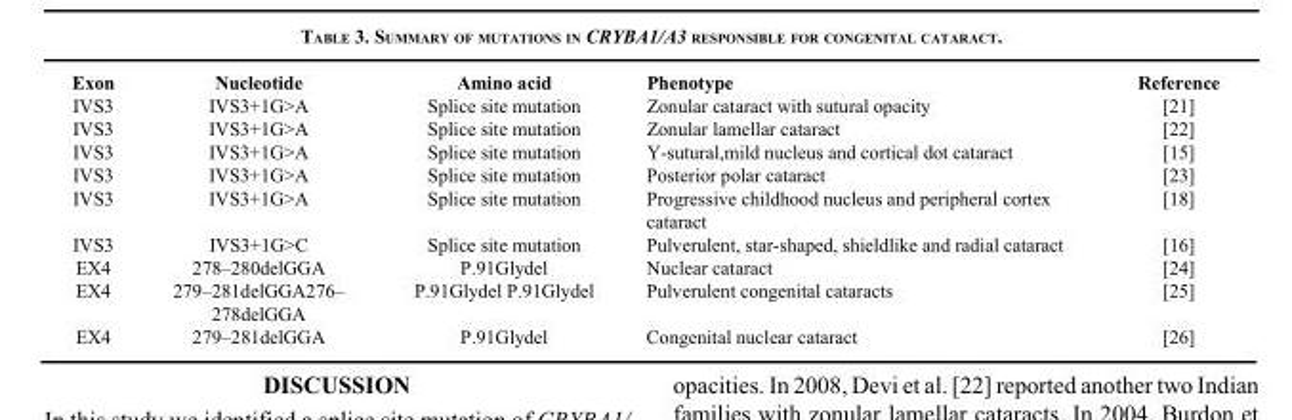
<table><thead><tr><td>Exon</td><td>Nucleotide</td><td>Amino acid</td><td>Phenotype</td><td>Reference</td></tr></thead><tbody><tr><td>IVS3</td><td>IVS3+1G&gt;A</td><td>Splice site mutation</td><td>Zonular cataract with sutural opacity</td><td>[21]</td></tr><tr><td>IVS3</td><td>IVS3+1G&gt;A</td><td>Splice site mutation</td><td>Zonular lamellar cataract</td><td>[22]</td></tr><tr><td>IVS3</td><td>IVS3+1G&gt;A</td><td>Splice site mutation</td><td>Y-sutural,mild nucleus and cortical dot cataract</td><td>[15]</td></tr><tr><td>IVS3</td><td>IVS3+1G&gt;A</td><td>Splice site mutation</td><td>Posterior polar cataract</td><td>[23]</td></tr><tr><td>IVS3</td><td>IVS3+1G&gt;A</td><td>Splice site mutation</td><td>Progressive childhood nucleus and peripheral cortex cataract</td><td>[18]</td></tr><tr><td>IVS3</td><td>IVS3+1G&gt;C</td><td>Splice site mutation</td><td>Pulverulent, star-shaped, shieldlike and radial cataract</td><td>[16]</td></tr><tr><td>EX4</td><td>278–280delGGA</td><td>P.91Glydel</td><td>Nuclear cataract</td><td>[24]</td></tr><tr><td>EX4</td><td>279–281delGGA276– 278delGGA</td><td>P.91Glydel P.91Glydel</td><td>Pulverulent congenital cataracts</td><td>[25]</td></tr><tr><td>EX4</td><td>279–281delGGA</td><td>P.91Glydel</td><td>Congenital nuclear cataract</td><td>[26]</td></tr></tbody></table>